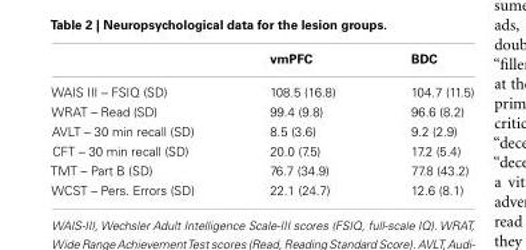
<table><thead><tr><td></td><td>vmPFC</td><td>BDC</td></tr></thead><tbody><tr><td>WAIS III – FSIQ (SD)</td><td>108.5 (16.8)</td><td>104.7 (11.5)</td></tr><tr><td>WRAT – Read (SD)</td><td>99.4 (9.8)</td><td>96.6 (8.2)</td></tr><tr><td>AVLT – 30 min recall (SD)</td><td>8.5 (3.6)</td><td>9.2 (2.9)</td></tr><tr><td>CFT – 30 min recall (SD)</td><td>20.0 (7.5)</td><td>17.2 (5.4)</td></tr><tr><td>TMT – Part B (SD)</td><td>76.7 (34.9)</td><td>77.8 (43.2)</td></tr><tr><td>WCST – Pers. Errors (SD)</td><td>22.1 (24.7)</td><td>12.6 (8.1)</td></tr></tbody></table>